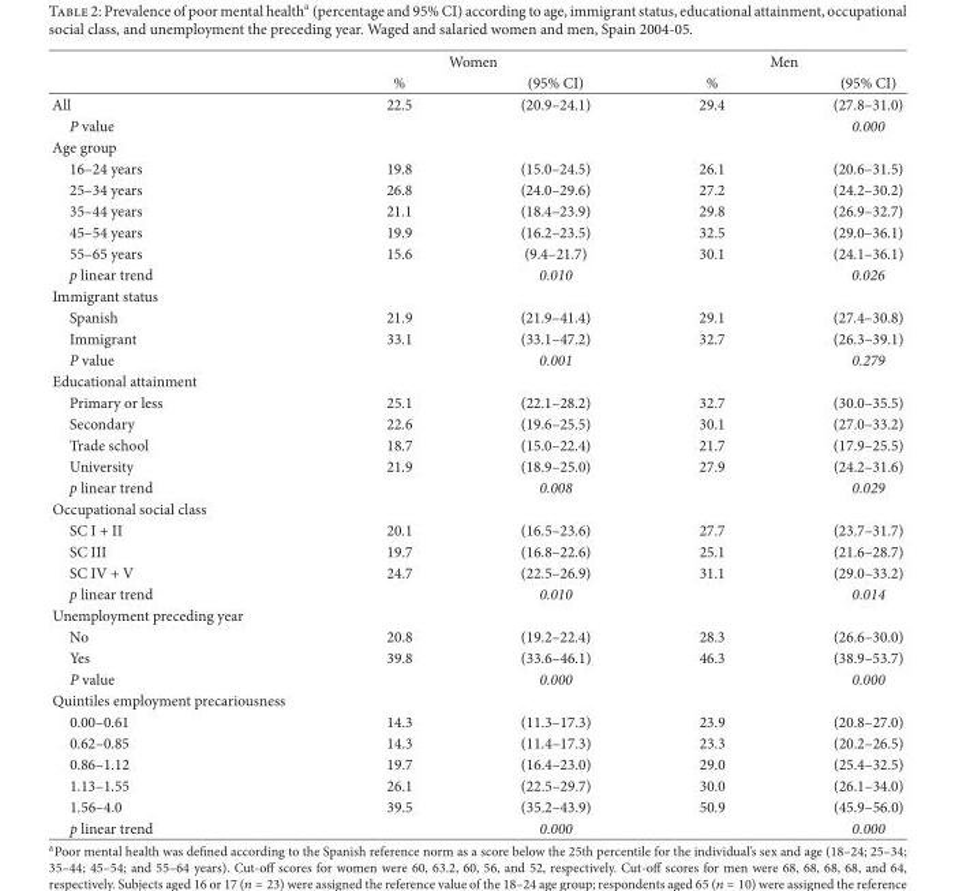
<table><thead><tr><td rowspan="2"></td><td colspan="2">Women</td><td colspan="2">Men</td></tr><tr><td>%</td><td>(95% CI)</td><td>%</td><td>(95% CI)</td></tr></thead><tbody><tr><td>All</td><td>22.5</td><td>(20.9–24.1)</td><td>29.4</td><td>(27.8–31.0)</td></tr><tr><td>P value</td><td></td><td></td><td></td><td>0.000</td></tr><tr><td colspan="5">Age group</td></tr><tr><td>16–24 years</td><td>19.8</td><td>(15.0–24.5)</td><td>26.1</td><td>(20.6–31.5)</td></tr><tr><td>25–34 years</td><td>26.8</td><td>(24.0–29.6)</td><td>27.2</td><td>(24.2–30.2)</td></tr><tr><td>35–44 years</td><td>21.1</td><td>(18.4–23.9)</td><td>29.8</td><td>(26.9–32.7)</td></tr><tr><td>45–54 years</td><td>19.9</td><td>(16.2–23.5)</td><td>32.5</td><td>(29.0–36.1)</td></tr><tr><td>55–65 years</td><td>15.6</td><td>(9.4–21.7)</td><td>30.1</td><td>(24.1–36.1)</td></tr><tr><td>p linear trend</td><td></td><td>0.010</td><td></td><td>0.026</td></tr><tr><td colspan="5">Immigrant status</td></tr><tr><td>Spanish</td><td>21.9</td><td>(21.9–41.4)</td><td>29.1</td><td>(27.4–30.8)</td></tr><tr><td>Immigrant</td><td>33.1</td><td>(33.1–47.2)</td><td>32.7</td><td>(26.3–39.1)</td></tr><tr><td>P value</td><td></td><td>0.001</td><td></td><td>0.279</td></tr><tr><td colspan="5">Educational attainment</td></tr><tr><td>Primary or less</td><td>25.1</td><td>(22.1–28.2)</td><td>32.7</td><td>(30.0–35.5)</td></tr><tr><td>Secondary</td><td>22.6</td><td>(19.6–25.5)</td><td>30.1</td><td>(27.0–33.2)</td></tr><tr><td>Trade school</td><td>18.7</td><td>(15.0–22.4)</td><td>21.7</td><td>(17.9–25.5)</td></tr><tr><td>University</td><td>21.9</td><td>(18.9–25.0)</td><td>27.9</td><td>(24.2–31.6)</td></tr><tr><td>p linear trend</td><td></td><td>0.008</td><td></td><td>0.029</td></tr><tr><td colspan="5">Occupational social class</td></tr><tr><td>SC I + II</td><td>20.1</td><td>(16.5–23.6)</td><td>27.7</td><td>(23.7–31.7)</td></tr><tr><td>SC III</td><td>19.7</td><td>(16.8–22.6)</td><td>25.1</td><td>(21.6–28.7)</td></tr><tr><td>SC IV + V</td><td>24.7</td><td>(22.5–26.9)</td><td>31.1</td><td>(29.0–33.2)</td></tr><tr><td>p linear trend</td><td></td><td>0.010</td><td></td><td>0.014</td></tr><tr><td colspan="5">Unemployment preceding year</td></tr><tr><td>No</td><td>20.8</td><td>(19.2–22.4)</td><td>28.3</td><td>(26.6–30.0)</td></tr><tr><td>Yes</td><td>39.8</td><td>(33.6–46.1)</td><td>46.3</td><td>(38.9–53.7)</td></tr><tr><td>P value</td><td></td><td>0.000</td><td></td><td>0.000</td></tr><tr><td colspan="5">Quintiles employment precariousness</td></tr><tr><td>0.00–0.61</td><td>14.3</td><td>(11.3–17.3)</td><td>23.9</td><td>(20.8–27.0)</td></tr><tr><td>0.62–0.85</td><td>14.3</td><td>(11.4–17.3)</td><td>23.3</td><td>(20.2–26.5)</td></tr><tr><td>0.86–1.12</td><td>19.7</td><td>(16.4–23.0)</td><td>29.0</td><td>(25.4–32.5)</td></tr><tr><td>1.13–1.55</td><td>26.1</td><td>(22.5–29.7)</td><td>30.0</td><td>(26.1–34.0)</td></tr><tr><td>1.56–4.0</td><td>39.5</td><td>(35.2–43.9)</td><td>50.9</td><td>(45.9–56.0)</td></tr><tr><td>p linear trend</td><td></td><td>0.000</td><td></td><td>0.000</td></tr></tbody></table>